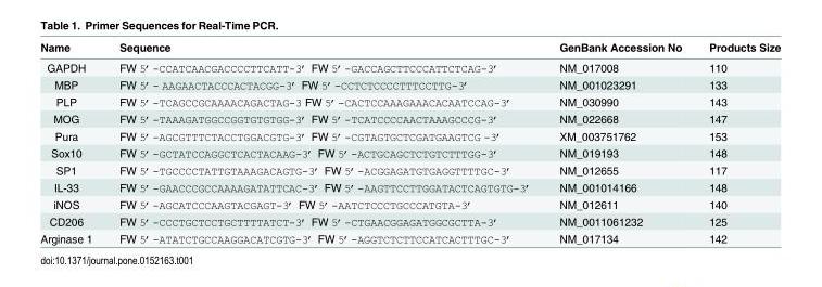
<table><thead><tr><td>Name</td><td>Sequence</td><td>GenBank Accession No</td><td>Products Size</td></tr></thead><tbody><tr><td>GAPDH</td><td>FW 5’-CCATCAACGACCCCTTCATT-3’ FW 5’-GACCAGCTTCCCATTCTCAG-3’</td><td>NM_017008</td><td>110</td></tr><tr><td>MBP</td><td>FW 5’- AAGAACTACCCACTACGG-3’ FW 5’-CCTCTCCCCTTTCCTTG-3’</td><td>NM_001023291</td><td>133</td></tr><tr><td>PLP</td><td>FW 5’-TCAGCCGCAAAACAGACTAG-3 FW 5’-CACTCCAAAGAAACACAATCCAG-3’</td><td>NM_030990</td><td>143</td></tr><tr><td>MOG</td><td>FW 5’-TAAAGATGGCCGGTGTGTGG-3’ FW 5’-TCATCCCCAACTAAAGCCCG-3’</td><td>NM_022668</td><td>147</td></tr><tr><td>Pura</td><td>FW 5’-AGCGTTTCTACCTGGACGTG-3’ FW 5’-CGTAGTGCTCGATGAAGTCG -3’</td><td>XM_003751762</td><td>153</td></tr><tr><td>Sox10</td><td>FW 5’-GCTATCCAGGCTCACTACAAG-3’ FW 5’-ACTGCAGCTCTGTCTTTGG-3’</td><td>NM_019193</td><td>148</td></tr><tr><td>SP1</td><td>FW 5’-TGCCCCTATTGTAAAGACAGTG-3’ FW 5’-ACGGAGATGTGAGGTTTTGC-3’</td><td>NM_012655</td><td>117</td></tr><tr><td>IL-33</td><td>FW 5’-GAACCCGCCAAAAGATATTCAC-3’ FW 5’-AAGTTCCTTGGATACTCAGTGTG-3’</td><td>NM_001014166</td><td>148</td></tr><tr><td>iNOS</td><td>FW 5’-AGCATCCCAAGTACGAGT-3’ FW 5’-AATCTCCCTGCCCATGTA-3’</td><td>NM_012611</td><td>140</td></tr><tr><td>CD206</td><td>FW 5’-CCCTGCTCCTGCTTTTATCT-3’ FW 5’-CTGAACGGAGATGGCGCTTA-3’</td><td>NM_0011061232</td><td>125</td></tr><tr><td>Arginase 1</td><td>FW 5’-ATATCTGCCAAGGACATCGTG-3’ FW 5’-AGGTCTCTTCCATCACTTTGC-3’</td><td>NM_017134</td><td>142</td></tr></tbody></table>